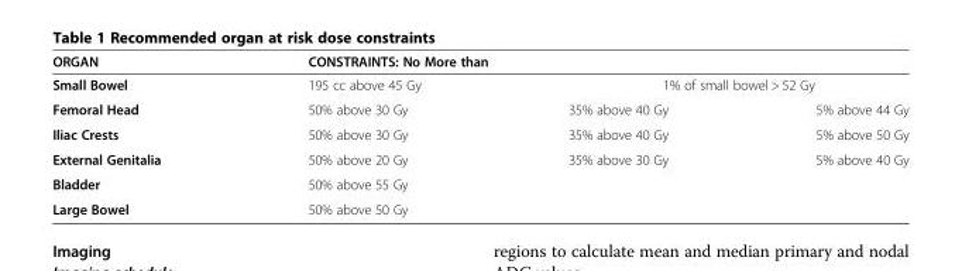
<table><thead><tr><td rowspan="3">ORGAN Small Bowel Femoral Head</td><td colspan="3">CONSTRAINTS: No More than</td></tr><tr><td rowspan="2">195 cc above 45 Gy 50% above 30 Gy</td><td colspan="2">1% of small bowel &gt; 52 Gy</td></tr><tr><td>35% above 40 Gy</td><td>5% above 44 Gy</td></tr></thead><tbody><tr><td>Iliac Crests</td><td>50% above 30 Gy</td><td>35% above 40 Gy</td><td>5% above 50 Gy</td></tr><tr><td>External Genitalia</td><td>50% above 20 Gy</td><td>35% above 30 Gy</td><td>5% above 40 Gy</td></tr><tr><td>Bladder</td><td colspan="3">50% above 55 Gy</td></tr><tr><td>Large Bowel</td><td colspan="3">50% above 50 Gy</td></tr></tbody></table>